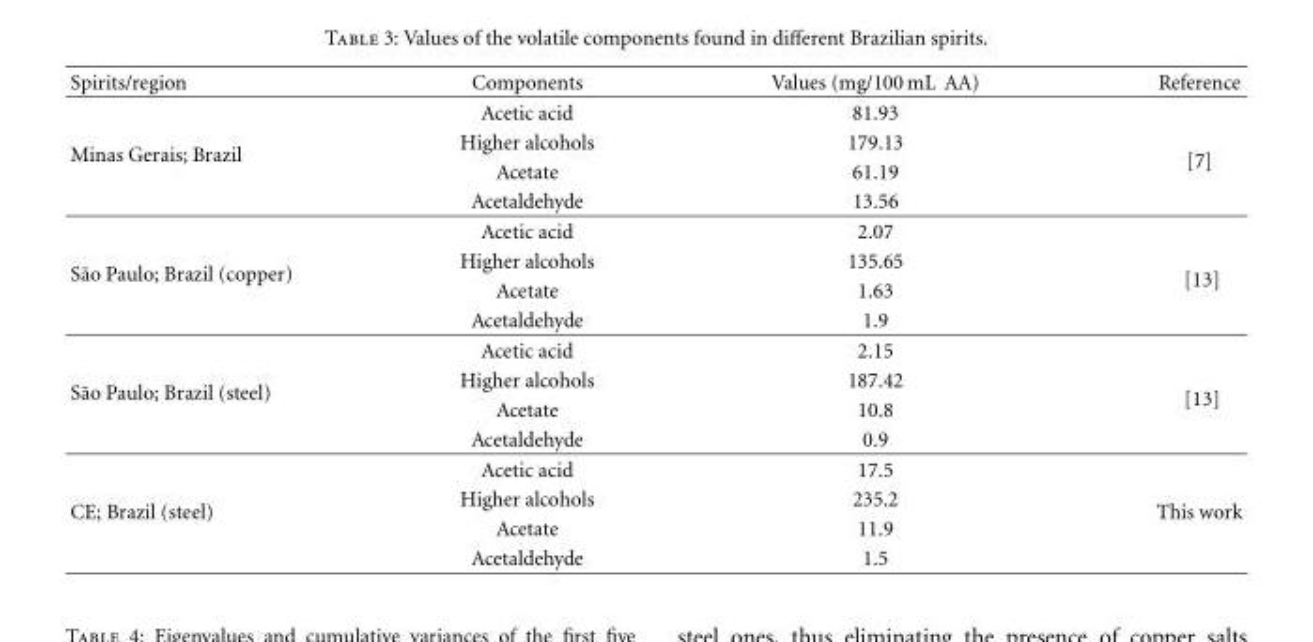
<table><thead><tr><td>Spirits/region</td><td>Components</td><td>Values (mg/100 mL AA)</td><td>Reference</td></tr></thead><tbody><tr><td rowspan="4">Minas Gerais; Brazil</td><td>Acetic acid</td><td>81.93</td><td rowspan="4">[7]</td></tr><tr><td>Higher alcohols</td><td>179.13</td></tr><tr><td>Acetate</td><td>61.19</td></tr><tr><td>Acetaldehyde</td><td>13.56</td></tr><tr><td rowspan="4">S˜ao Paulo; Brazil (copper)</td><td>Acetic acid</td><td>2.07</td><td rowspan="4">[13]</td></tr><tr><td>Higher alcohols</td><td>135.65</td></tr><tr><td>Acetate</td><td>1.63</td></tr><tr><td>Acetaldehyde</td><td>1.9</td></tr><tr><td rowspan="4">S˜ao Paulo; Brazil (steel)</td><td>Acetic acid</td><td>2.15</td><td rowspan="4">[13]</td></tr><tr><td>Higher alcohols</td><td>187.42</td></tr><tr><td>Acetate</td><td>10.8</td></tr><tr><td>Acetaldehyde</td><td>0.9</td></tr><tr><td rowspan="4">CE; Brazil (steel)</td><td>Acetic acid</td><td>17.5</td><td rowspan="4">This work</td></tr><tr><td>Higher alcohols</td><td>235.2</td></tr><tr><td>Acetate</td><td>11.9</td></tr><tr><td>Acetaldehyde</td><td>1.5</td></tr></tbody></table>